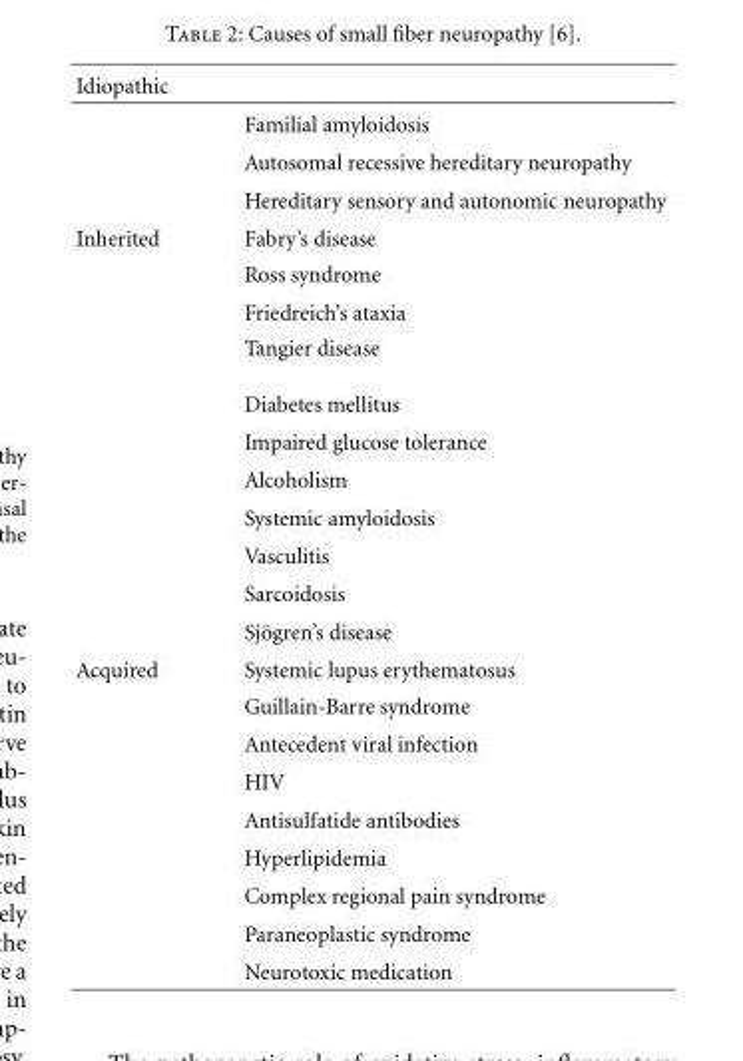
<table><thead><tr><td>Idiopathic</td><td></td></tr></thead><tbody><tr><td></td><td>Familial amyloidosis</td></tr><tr><td></td><td>Autosomal recessive hereditary neuropathy</td></tr><tr><td></td><td>Hereditary sensory and autonomic neuropathy</td></tr><tr><td rowspan="11">Inherited</td><td>Fabry’s disease</td></tr><tr><td>Ross syndrome</td></tr><tr><td>Friedreich’s ataxia</td></tr><tr><td>Tangier disease</td></tr><tr><td>Diabetes mellitus</td></tr><tr><td>Impaired glucose tolerance</td></tr><tr><td>Alcoholism</td></tr><tr><td>Systemic amyloidosis</td></tr><tr><td>Vasculitis</td></tr><tr><td>Sarcoidosis</td></tr><tr><td>Sj¨ogren’s disease</td></tr><tr><td rowspan="9">Acquired</td><td>Systemic lupus erythematosus</td></tr><tr><td>Guillain-Barre syndrome</td></tr><tr><td>Antecedent viral infection</td></tr><tr><td>HIV</td></tr><tr><td>Antisulfatide antibodies</td></tr><tr><td>Hyperlipidemia</td></tr><tr><td>Complex regional pain syndrome</td></tr><tr><td>Paraneoplastic syndrome</td></tr><tr><td>Neurotoxic medication</td></tr></tbody></table>